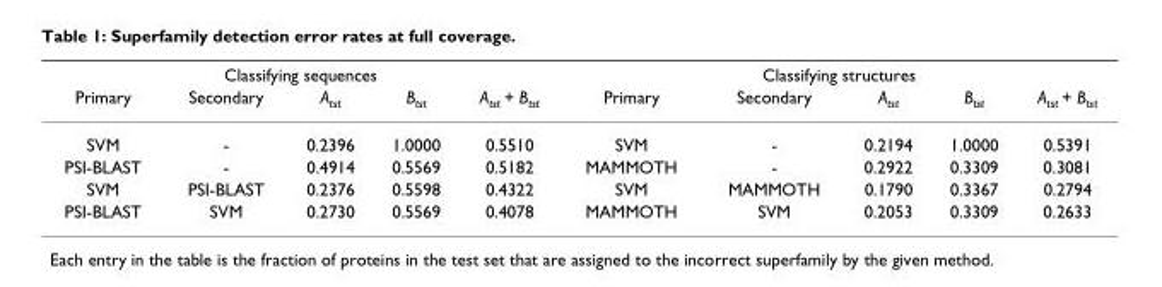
<table><thead><tr><td colspan="5">Classifying sequences</td><td colspan="5">Classifying structures</td></tr><tr><td>Primary</td><td>Secondary</td><td>A<sub>tst</sub></td><td>B<sub>tst</sub></td><td>A<sub>tst</sub> + B<sub>tst</sub></td><td>Primary</td><td>Secondary</td><td>A<sub>tst</sub></td><td>B<sub>tst</sub></td><td>A<sub>tst</sub> + B<sub>tst</sub></td></tr></thead><tbody><tr><td>SVM</td><td>-</td><td>0.2396</td><td>1.0000</td><td>0.5510</td><td>SVM</td><td>-</td><td>0.2194</td><td>1.0000</td><td>0.5391</td></tr><tr><td>PSI-BLAST</td><td>-</td><td>0.4914</td><td>0.5569</td><td>0.5182</td><td>MAMMOTH</td><td>-</td><td>0.2922</td><td>0.3309</td><td>0.3081</td></tr><tr><td>SVM</td><td>PSI-BLAST</td><td>0.2376</td><td>0.5598</td><td>0.4322</td><td>SVM</td><td>MAMMOTH</td><td>0.1790</td><td>0.3367</td><td>0.2794</td></tr><tr><td>PSI-BLAST</td><td>SVM</td><td>0.2730</td><td>0.5569</td><td>0.4078</td><td>MAMMOTH</td><td>SVM</td><td>0.2053</td><td>0.3309</td><td>0.2633</td></tr></tbody></table>